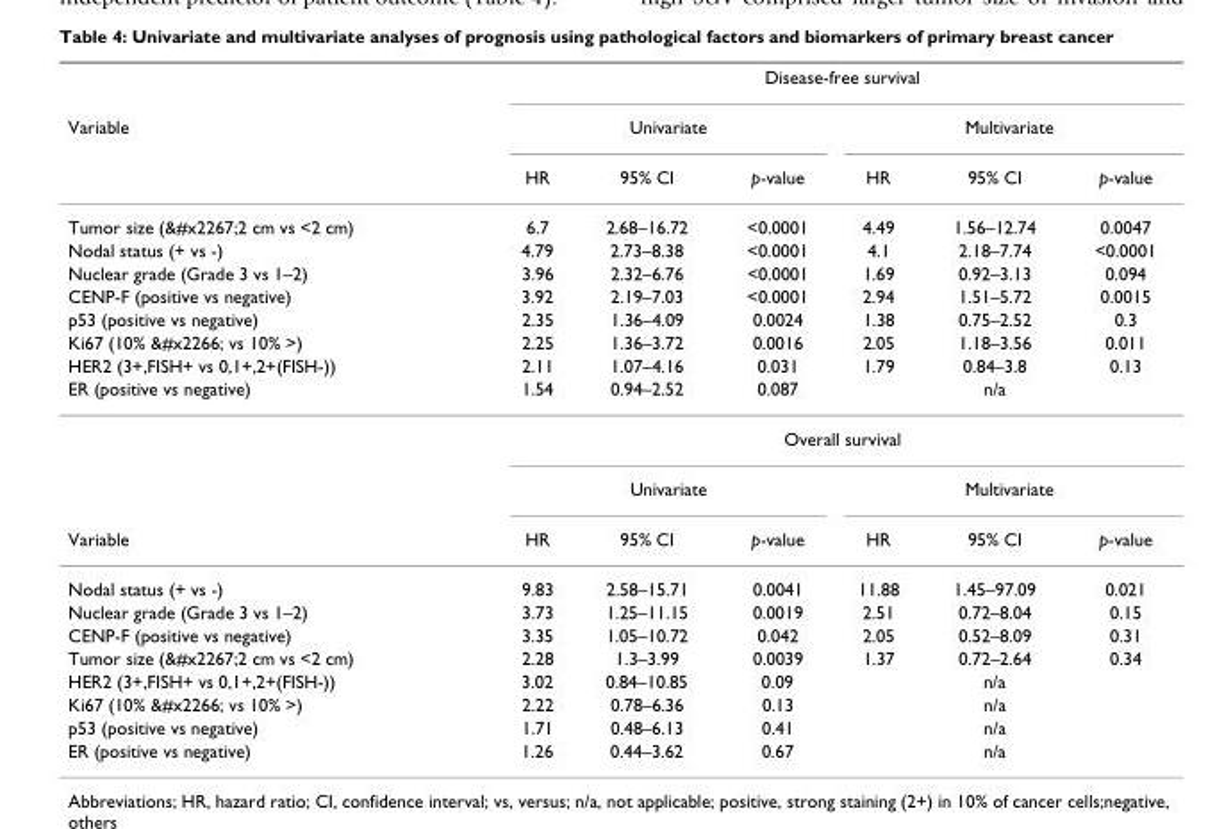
<table><thead><tr><td rowspan="3">Variable</td><td colspan="6">Disease-free survival</td></tr><tr><td colspan="3">Univariate</td><td colspan="3">Multivariate</td></tr><tr><td>HR</td><td>95% CI</td><td>p-value</td><td>HR</td><td>95% CI</td><td>p-value</td></tr></thead><tbody><tr><td>Tumor size (&amp;#x2267;2 cm vs &lt;2 cm)</td><td>6.7</td><td>2.68–16.72</td><td>&lt;0.0001</td><td>4.49</td><td>1.56–12.74</td><td>0.0047</td></tr><tr><td>Nodal status (+ vs -)</td><td>4.79</td><td>2.73–8.38</td><td>&lt;0.0001</td><td>4.1</td><td>2.18–7.74</td><td>&lt;0.0001</td></tr><tr><td>Nuclear grade (Grade 3 vs 1–2)</td><td>3.96</td><td>2.32–6.76</td><td>&lt;0.0001</td><td>1.69</td><td>0.92–3.13</td><td>0.094</td></tr><tr><td>CENP-F (positive vs negative)</td><td>3.92</td><td>2.19–7.03</td><td>&lt;0.0001</td><td>2.94</td><td>1.51–5.72</td><td>0.0015</td></tr><tr><td>p53 (positive vs negative)</td><td>2.35</td><td>1.36–4.09</td><td>0.0024</td><td>1.38</td><td>0.75–2.52</td><td>0.3</td></tr><tr><td>Ki67 (10% &amp;#x2266; vs 10% &gt;)</td><td>2.25</td><td>1.36–3.72</td><td>0.0016</td><td>2.05</td><td>1.18–3.56</td><td>0.011</td></tr><tr><td>HER2 (3+,FISH+ vs 0,1+,2+(FISH-))</td><td>2.11</td><td>1.07–4.16</td><td>0.031</td><td>1.79</td><td>0.84–3.8</td><td>0.13</td></tr><tr><td rowspan="3">ER (positive vs negative)</td><td>1.54</td><td>0.94–2.52</td><td>0.087</td><td></td><td>n/a</td><td></td></tr><tr><td colspan="6">Overall survival</td></tr><tr><td colspan="3">Univariate</td><td colspan="3">Multivariate</td></tr><tr><td>Variable</td><td>HR</td><td>95% CI</td><td>p-value</td><td>HR</td><td>95% CI</td><td>p-value</td></tr><tr><td>Nodal status (+ vs -)</td><td>9.83</td><td>2.58–15.71</td><td>0.0041</td><td>11.88</td><td>1.45–97.09</td><td>0.021</td></tr><tr><td>Nuclear grade (Grade 3 vs 1–2)</td><td>3.73</td><td>1.25–11.15</td><td>0.0019</td><td>2.51</td><td>0.72–8.04</td><td>0.15</td></tr><tr><td>CENP-F (positive vs negative)</td><td>3.35</td><td>1.05–10.72</td><td>0.042</td><td>2.05</td><td>0.52–8.09</td><td>0.31</td></tr><tr><td>Tumor size (&amp;#x2267;2 cm vs &lt;2 cm)</td><td>2.28</td><td>1.3–3.99</td><td>0.0039</td><td>1.37</td><td>0.72–2.64</td><td>0.34</td></tr><tr><td>HER2 (3+,FISH+ vs 0,1+,2+(FISH-))</td><td>3.02</td><td>0.84–10.85</td><td>0.09</td><td></td><td>n/a</td><td></td></tr><tr><td>Ki67 (10% &amp;#x2266; vs 10% &gt;)</td><td>2.22</td><td>0.78–6.36</td><td>0.13</td><td></td><td>n/a</td><td></td></tr><tr><td>p53 (positive vs negative)</td><td>1.71</td><td>0.48–6.13</td><td>0.41</td><td></td><td>n/a</td><td></td></tr><tr><td>ER (positive vs negative)</td><td>1.26</td><td>0.44–3.62</td><td>0.67</td><td></td><td>n/a</td><td></td></tr></tbody></table>